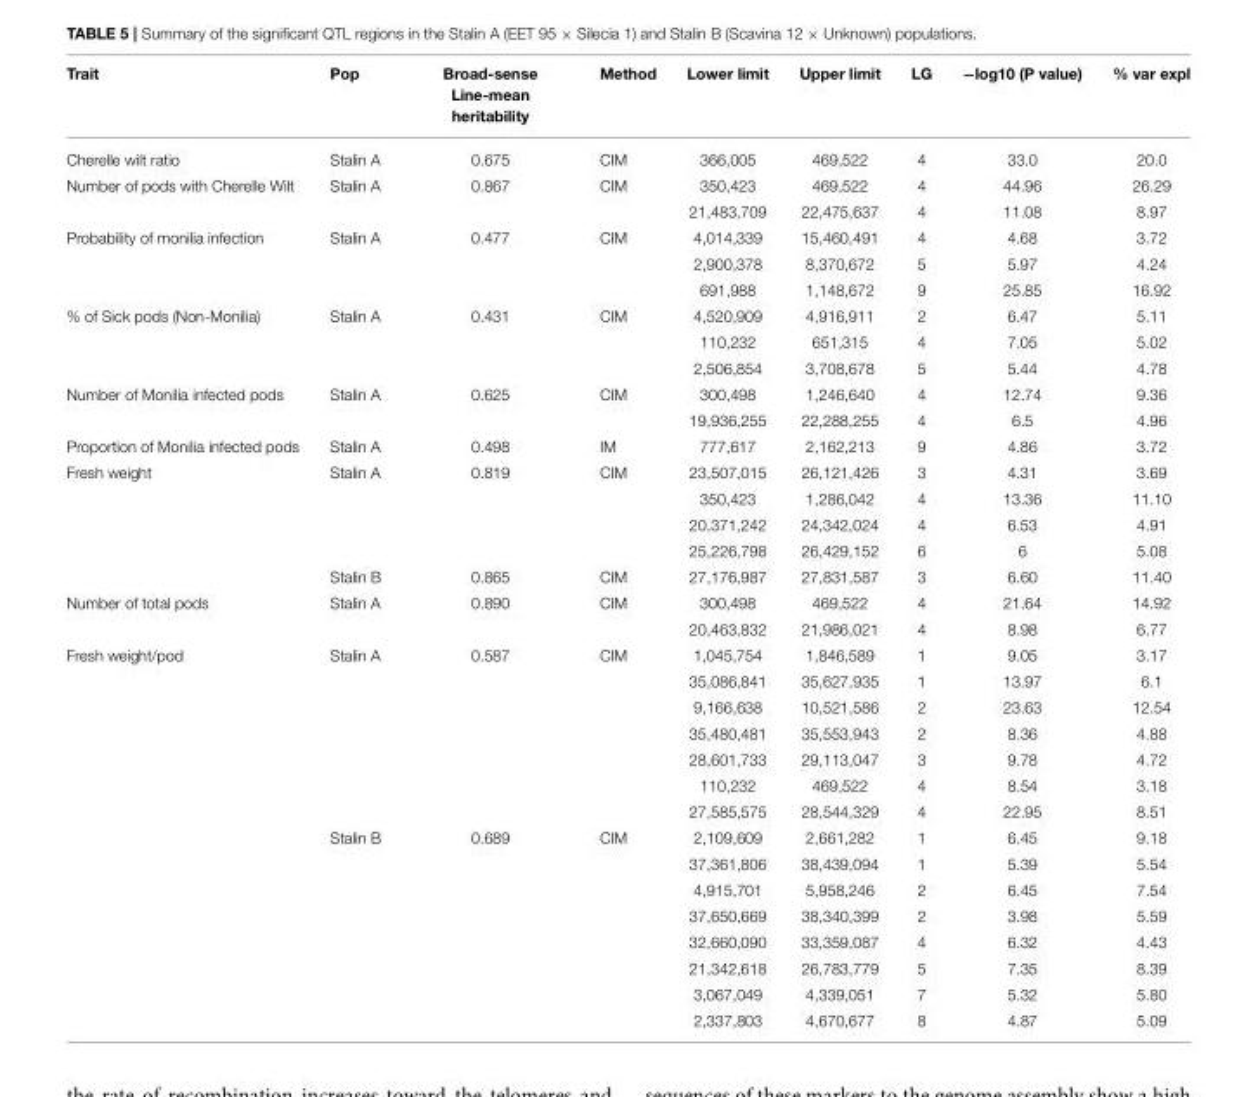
<table><thead><tr><td>Trait</td><td>Pop</td><td>Broad-sense Line-mean heritability</td><td>Method</td><td>Lower limit</td><td>Upper limit</td><td>LG</td><td>−log10 (P value)</td><td>% var expl</td></tr></thead><tbody><tr><td>Cherelle wilt ratio</td><td>Stalin A</td><td>0.675</td><td>CIM</td><td>366,005</td><td>469,522</td><td>4</td><td>33.0</td><td>20.0</td></tr><tr><td rowspan="2">Number of pods with Cherelle Wilt</td><td>Stalin A</td><td>0.867</td><td>CIM</td><td>350,423</td><td>469,522</td><td>4</td><td>44.96</td><td>26.29</td></tr><tr><td></td><td></td><td></td><td>21,483,709</td><td>22,475,637</td><td>4</td><td>11.08</td><td>8.97</td></tr><tr><td rowspan="3">Probability of monilia infection</td><td>Stalin A</td><td>0.477</td><td>CIM</td><td>4,014,339</td><td>15,460,491</td><td>4</td><td>4.68</td><td>3.72</td></tr><tr><td></td><td></td><td></td><td>2,900,378</td><td>8,370,672</td><td>5</td><td>5.97</td><td>4.24</td></tr><tr><td></td><td></td><td></td><td>691,988</td><td>1,148,672</td><td>9</td><td>25.85</td><td>16.92</td></tr><tr><td rowspan="3">% of Sick pods (Non-Monilia)</td><td>Stalin A</td><td>0.431</td><td>CIM</td><td>4,520,909</td><td>4,916,911</td><td>2</td><td>6.47</td><td>5.11</td></tr><tr><td></td><td></td><td></td><td>110,232</td><td>651,315</td><td>4</td><td>7.05</td><td>5.02</td></tr><tr><td></td><td></td><td></td><td>2,506,854</td><td>3,708,678</td><td>5</td><td>5.44</td><td>4.78</td></tr><tr><td rowspan="2">Number of Monilia infected pods</td><td>Stalin A</td><td>0.625</td><td>CIM</td><td>300,498</td><td>1,246,640</td><td>4</td><td>12.74</td><td>9.36</td></tr><tr><td></td><td></td><td></td><td>19,936,255</td><td>22,288,255</td><td>4</td><td>6.5</td><td>4.96</td></tr><tr><td>Proportion of Monilia infected pods</td><td>Stalin A</td><td>0.498</td><td>IM</td><td>777,617</td><td>2,162,213</td><td>9</td><td>4.86</td><td>3.72</td></tr><tr><td rowspan="5">Fresh weight</td><td>Stalin A</td><td>0.819</td><td>CIM</td><td>23,507,015</td><td>26,121,426</td><td>3</td><td>4.31</td><td>3.69</td></tr><tr><td></td><td></td><td></td><td>350,423</td><td>1,286,042</td><td>4</td><td>13.36</td><td>11.10</td></tr><tr><td></td><td></td><td></td><td>20,371,242</td><td>24,342,024</td><td>4</td><td>6.53</td><td>4.91</td></tr><tr><td></td><td></td><td></td><td>25,226,798</td><td>26,429,152</td><td>6</td><td>6</td><td>5.08</td></tr><tr><td>Stalin B</td><td>0.865</td><td>CIM</td><td>27,176,987</td><td>27,831,587</td><td>3</td><td>6.60</td><td>11.40</td></tr><tr><td rowspan="2">Number of total pods</td><td>Stalin A</td><td>0.890</td><td>CIM</td><td>300,498</td><td>469,522</td><td>4</td><td>21.64</td><td>14.92</td></tr><tr><td></td><td></td><td></td><td>20,463,832</td><td>21,986,021</td><td>4</td><td>8.98</td><td>6.77</td></tr><tr><td rowspan="15">Fresh weight/pod</td><td>Stalin A</td><td>0.587</td><td>CIM</td><td>1,045,754</td><td>1,846,589</td><td>1</td><td>9.05</td><td>3.17</td></tr><tr><td></td><td></td><td></td><td>35,086,841</td><td>35,627,935</td><td>1</td><td>13.97</td><td>6.1</td></tr><tr><td></td><td></td><td></td><td>9,166,638</td><td>10,521,586</td><td>2</td><td>23.63</td><td>12.54</td></tr><tr><td></td><td></td><td></td><td>35,480,481</td><td>35,553,943</td><td>2</td><td>8.36</td><td>4.88</td></tr><tr><td></td><td></td><td></td><td>28,601,733</td><td>29,113,047</td><td>3</td><td>9.78</td><td>4.72</td></tr><tr><td></td><td></td><td></td><td>110,232</td><td>469,522</td><td>4</td><td>8.54</td><td>3.18</td></tr><tr><td></td><td></td><td></td><td>27,585,575</td><td>28,544,329</td><td>4</td><td>22.95</td><td>8.51</td></tr><tr><td>Stalin B</td><td>0.689</td><td>CIM</td><td>2,109,609</td><td>2,661,282</td><td>1</td><td>6.45</td><td>9.18</td></tr><tr><td></td><td></td><td></td><td>37,361,806</td><td>38,439,094</td><td>1</td><td>5.39</td><td>5.54</td></tr><tr><td></td><td></td><td></td><td>4,915,701</td><td>5,958,246</td><td>2</td><td>6.45</td><td>7.54</td></tr><tr><td></td><td></td><td></td><td>37,650,669</td><td>38,340,399</td><td>2</td><td>3.98</td><td>5.59</td></tr><tr><td></td><td></td><td></td><td>32,660,090</td><td>33,359,087</td><td>4</td><td>6.32</td><td>4.43</td></tr><tr><td></td><td></td><td></td><td>21,342,618</td><td>26,783,779</td><td>5</td><td>7.35</td><td>8.39</td></tr><tr><td></td><td></td><td></td><td>3,067,049</td><td>4,339,051</td><td>7</td><td>5.32</td><td>5.80</td></tr><tr><td></td><td></td><td></td><td>2,337,803</td><td>4,670,677</td><td>8</td><td>4.87</td><td>5.09</td></tr></tbody></table>